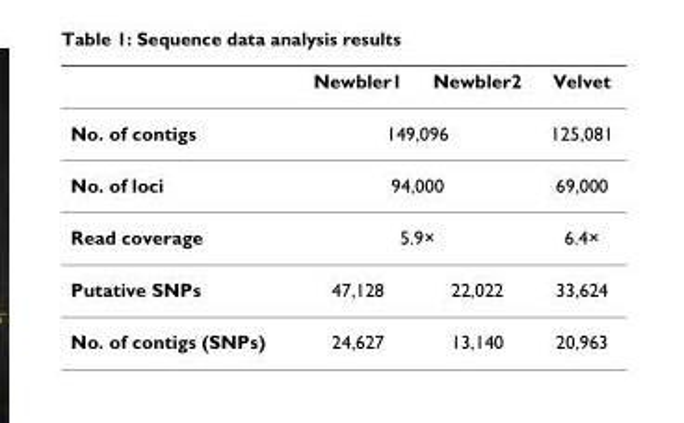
<table><thead><tr><td></td><td>Newbler1</td><td>Newbler2</td><td>Velvet</td></tr></thead><tbody><tr><td>No. of contigs</td><td colspan="2">149,096</td><td>125,081</td></tr><tr><td>No. of loci</td><td colspan="2">94,000</td><td>69,000</td></tr><tr><td>Read coverage</td><td colspan="2">5.9×</td><td>6.4×</td></tr><tr><td>Putative SNPs</td><td>47,128</td><td>22,022</td><td>33,624</td></tr><tr><td>No. of contigs (SNPs)</td><td>24,627</td><td>13,140</td><td>20,963</td></tr></tbody></table>